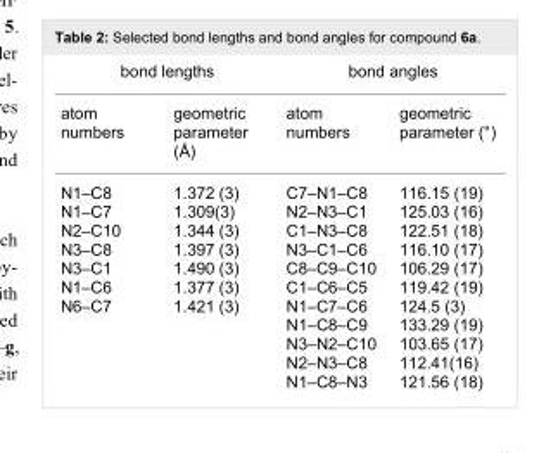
<table><tbody><tr><td colspan="2">bond lengths</td><td colspan="2">bond angles</td></tr><tr><td>atom numbers</td><td>geometric parameter (Å)</td><td>atom numbers</td><td>geometric parameter (°)</td></tr><tr><td>N1–C8 N1–C7 N2–C10 N3–C8 N3–C1 N1–C6 N6–C7</td><td>1.372 (3) 1.309(3) 1.344 (3) 1.397 (3) 1.490 (3) 1.377 (3) 1.421 (3)</td><td>C7–N1–C8 N2–N3–C1 C1–N3–C8 N3–C1–C6 C8–C9–C10 C1–C6–C5 N1–C7–C6 N1–C8–C9 N3–N2–C10 N2–N3–C8 N1–C8–N3</td><td>116.15 (19) 125.03 (16) 122.51 (18) 116.10 (17) 106.29 (17) 119.42 (19) 124.5 (3) 133.29 (19) 103.65 (17) 112.41(16) 121.56 (18)</td></tr></tbody></table>